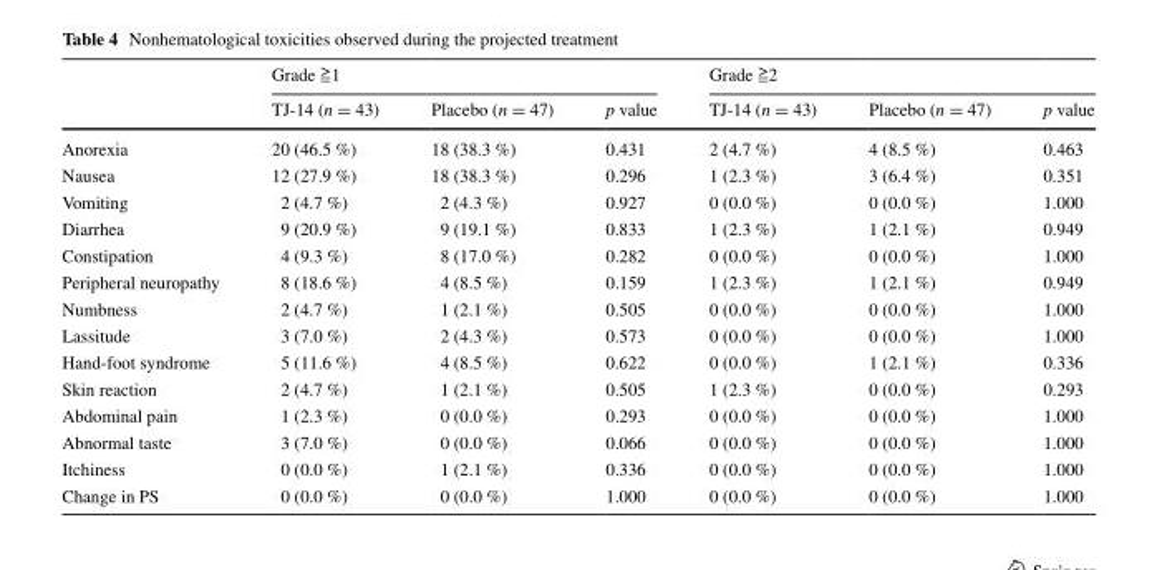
<table><thead><tr><td rowspan="2"></td><td colspan="3">Grade ≧1</td><td colspan="3">Grade ≧2</td></tr><tr><td>TJ-14 (n = 43)</td><td>Placebo (n = 47)</td><td>p value</td><td>TJ-14 (n = 43)</td><td>Placebo (n = 47)</td><td>p value</td></tr></thead><tbody><tr><td>Anorexia</td><td>20 (46.5 %)</td><td>18 (38.3 %)</td><td>0.431</td><td>2 (4.7 %)</td><td>4 (8.5 %)</td><td>0.463</td></tr><tr><td>Nausea</td><td>12 (27.9 %)</td><td>18 (38.3 %)</td><td>0.296</td><td>1 (2.3 %)</td><td>3 (6.4 %)</td><td>0.351</td></tr><tr><td>Vomiting</td><td>2 (4.7 %)</td><td>2 (4.3 %)</td><td>0.927</td><td>0 (0.0 %)</td><td>0 (0.0 %)</td><td>1.000</td></tr><tr><td>Diarrhea</td><td>9 (20.9 %)</td><td>9 (19.1 %)</td><td>0.833</td><td>1 (2.3 %)</td><td>1 (2.1 %)</td><td>0.949</td></tr><tr><td>Constipation</td><td>4 (9.3 %)</td><td>8 (17.0 %)</td><td>0.282</td><td>0 (0.0 %)</td><td>0 (0.0 %)</td><td>1.000</td></tr><tr><td>Peripheral neuropathy</td><td>8 (18.6 %)</td><td>4 (8.5 %)</td><td>0.159</td><td>1 (2.3 %)</td><td>1 (2.1 %)</td><td>0.949</td></tr><tr><td>Numbness</td><td>2 (4.7 %)</td><td>1 (2.1 %)</td><td>0.505</td><td>0 (0.0 %)</td><td>0 (0.0 %)</td><td>1.000</td></tr><tr><td>Lassitude</td><td>3 (7.0 %)</td><td>2 (4.3 %)</td><td>0.573</td><td>0 (0.0 %)</td><td>0 (0.0 %)</td><td>1.000</td></tr><tr><td>Hand-foot syndrome</td><td>5 (11.6 %)</td><td>4 (8.5 %)</td><td>0.622</td><td>0 (0.0 %)</td><td>1 (2.1 %)</td><td>0.336</td></tr><tr><td>Skin reaction</td><td>2 (4.7 %)</td><td>1 (2.1 %)</td><td>0.505</td><td>1 (2.3 %)</td><td>0 (0.0 %)</td><td>0.293</td></tr><tr><td>Abdominal pain</td><td>1 (2.3 %)</td><td>0 (0.0 %)</td><td>0.293</td><td>0 (0.0 %)</td><td>0 (0.0 %)</td><td>1.000</td></tr><tr><td>Abnormal taste</td><td>3 (7.0 %)</td><td>0 (0.0 %)</td><td>0.066</td><td>0 (0.0 %)</td><td>0 (0.0 %)</td><td>1.000</td></tr><tr><td>Itchiness</td><td>0 (0.0 %)</td><td>1 (2.1 %)</td><td>0.336</td><td>0 (0.0 %)</td><td>0 (0.0 %)</td><td>1.000</td></tr><tr><td>Change in PS</td><td>0 (0.0 %)</td><td>0 (0.0 %)</td><td>1.000</td><td>0 (0.0 %)</td><td>0 (0.0 %)</td><td>1.000</td></tr></tbody></table>